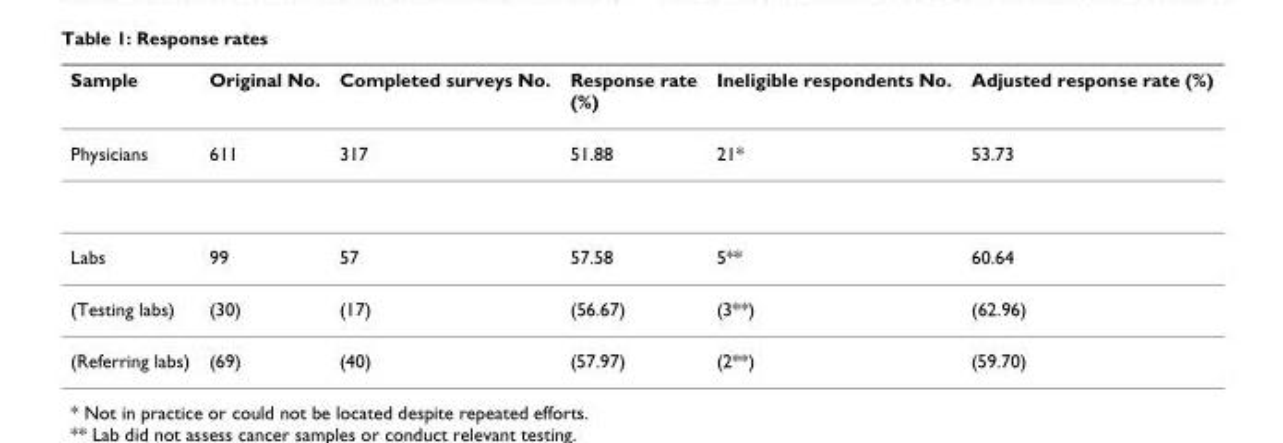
<table><thead><tr><td>Sample</td><td>Original No.</td><td>Completed surveys No.</td><td>Response rate (%)</td><td>Ineligible respondents No.</td><td>Adjusted response rate (%)</td></tr></thead><tbody><tr><td>Physicians</td><td>611</td><td>317</td><td>51.88</td><td>21*</td><td>53.73</td></tr><tr><td>Labs</td><td>99</td><td>57</td><td>57.58</td><td>5**</td><td>60.64</td></tr><tr><td>(Testing labs)</td><td>(30)</td><td>(17)</td><td>(56.67)</td><td>(3**)</td><td>(62.96)</td></tr><tr><td>(Referring labs)</td><td>(69)</td><td>(40)</td><td>(57.97)</td><td>(2**)</td><td>(59.70)</td></tr></tbody></table>